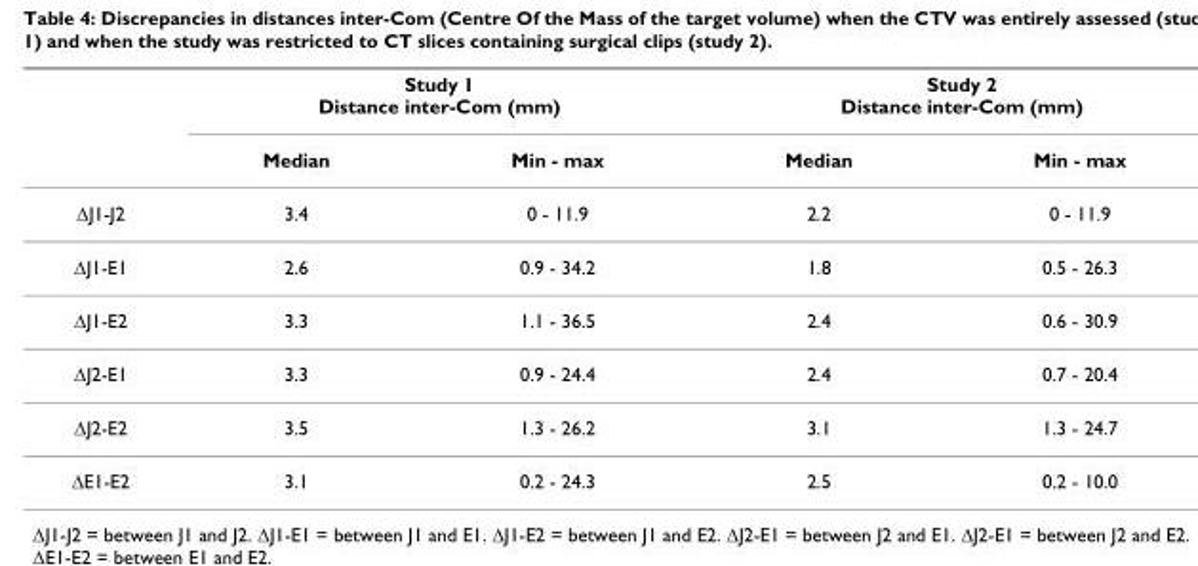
<table><thead><tr><td rowspan="2"></td><td colspan="2">Study 1 Distance inter-Com (mm)</td><td colspan="2">Study 2 Distance inter-Com (mm)</td></tr><tr><td>Median</td><td>Min - max</td><td>Median</td><td>Min - max</td></tr></thead><tbody><tr><td>ΔJ1-J2</td><td>3.4</td><td>0 - 11.9</td><td>2.2</td><td>0 - 11.9</td></tr><tr><td>ΔJ1-E1</td><td>2.6</td><td>0.9 - 34.2</td><td>1.8</td><td>0.5 - 26.3</td></tr><tr><td>ΔJ1-E2</td><td>3.3</td><td>1.1 - 36.5</td><td>2.4</td><td>0.6 - 30.9</td></tr><tr><td>ΔJ2-E1</td><td>3.3</td><td>0.9 - 24.4</td><td>2.4</td><td>0.7 - 20.4</td></tr><tr><td>ΔJ2-E2</td><td>3.5</td><td>1.3 - 26.2</td><td>3.1</td><td>1.3 - 24.7</td></tr><tr><td>ΔE1-E2</td><td>3.1</td><td>0.2 - 24.3</td><td>2.5</td><td>0.2 - 10.0</td></tr></tbody></table>